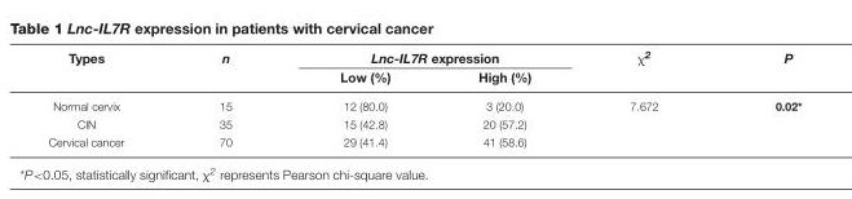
<table><thead><tr><td rowspan="2">Types</td><td rowspan="2">n</td><td colspan="2">Lnc-IL7R expression</td><td rowspan="2">χ<sup>2</sup></td><td rowspan="2">P</td></tr><tr><td>Low (%)</td><td>High (%)</td></tr></thead><tbody><tr><td>Normal cervix</td><td>15</td><td>12 (80.0)</td><td>3 (20.0)</td><td>7.672</td><td>0.02*</td></tr><tr><td>CIN</td><td>35</td><td>15 (42.8)</td><td>20 (57.2)</td><td></td><td></td></tr><tr><td>Cervical cancer</td><td>70</td><td>29 (41.4)</td><td>41 (58.6)</td><td></td><td></td></tr></tbody></table>